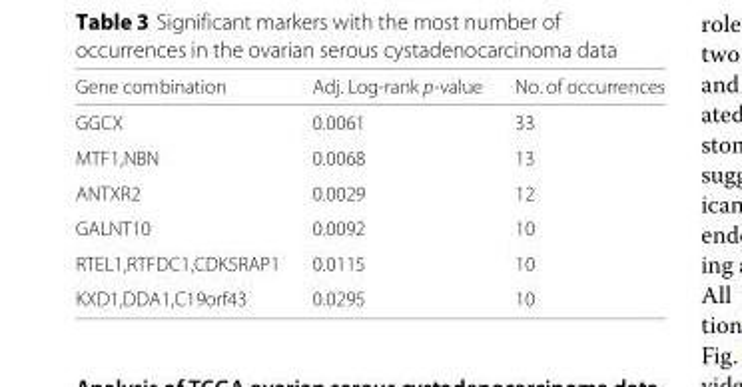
<table><thead><tr><td>Gene combination</td><td>Adj. Log-rank p-value</td><td>No. of occurrences</td></tr></thead><tbody><tr><td>GGCX</td><td>0.0061</td><td>33</td></tr><tr><td>MTF1,NBN</td><td>0.0068</td><td>13</td></tr><tr><td>ANTXR2</td><td>0.0029</td><td>12</td></tr><tr><td>GALNT10</td><td>0.0092</td><td>10</td></tr><tr><td>RTEL1,RTFDC1,CDK5RAP1</td><td>0.0115</td><td>10</td></tr><tr><td>KXD1,DDA1,C19orf43</td><td>0.0295</td><td>10</td></tr></tbody></table>